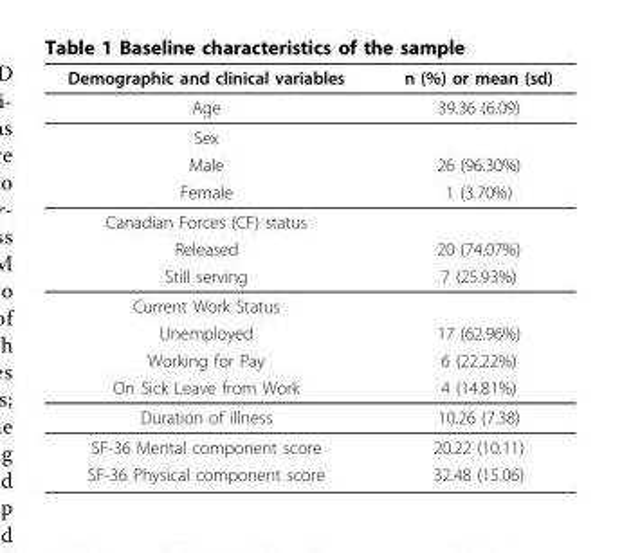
<table><thead><tr><td>Demographic and clinical variables</td><td>n (%) or mean (sd)</td></tr></thead><tbody><tr><td>Age</td><td>39.36 (6.09)</td></tr><tr><td colspan="2">Sex</td></tr><tr><td>Male</td><td>26 (96.30%)</td></tr><tr><td>Female</td><td>1 (3.70%)</td></tr><tr><td colspan="2">Canadian Forces (CF) status</td></tr><tr><td>Released</td><td>20 (74.07%)</td></tr><tr><td>Still serving</td><td>7 (25.93%)</td></tr><tr><td colspan="2">Current Work Status</td></tr><tr><td>Unemployed</td><td>17 (62.96%)</td></tr><tr><td>Working for Pay</td><td>6 (22.22%)</td></tr><tr><td>On Sick Leave from Work</td><td>4 (14.81%)</td></tr><tr><td>Duration of illness</td><td>10.26 (7.38)</td></tr><tr><td>SF-36 Mental component score</td><td>20.22 (10.11)</td></tr><tr><td>SF-36 Physical component score</td><td>32.48 (15.06)</td></tr></tbody></table>